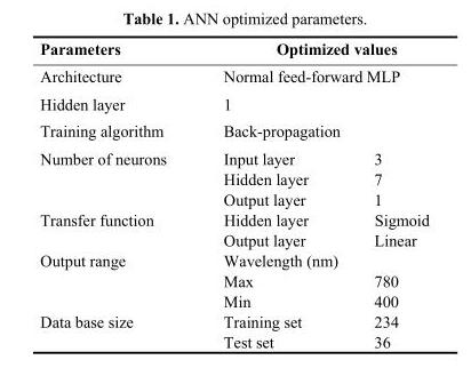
<table><thead><tr><td>Parameters</td><td colspan="2">Optimized values</td></tr></thead><tbody><tr><td>Architecture</td><td colspan="2">Normal feed-forward MLP</td></tr><tr><td>Hidden layer</td><td colspan="2">1</td></tr><tr><td>Training algorithm</td><td colspan="2">Back-propagation</td></tr><tr><td rowspan="3">Number of neurons</td><td>Input layer</td><td>3</td></tr><tr><td>Hidden layer</td><td>7</td></tr><tr><td>Output layer</td><td>1</td></tr><tr><td rowspan="2">Transfer function</td><td>Hidden layer</td><td>Sigmoid</td></tr><tr><td>Output layer</td><td>Linear</td></tr><tr><td rowspan="3">Output range</td><td>Wavelength (nm)</td><td></td></tr><tr><td>Max</td><td>780</td></tr><tr><td>Min</td><td>400</td></tr><tr><td rowspan="2">Data base size</td><td>Training set</td><td>234</td></tr><tr><td>Test set</td><td>36</td></tr></tbody></table>